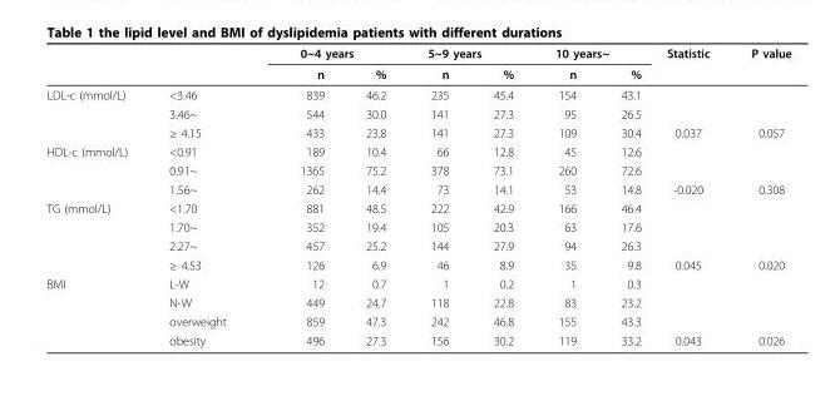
<table><thead><tr><td rowspan="2"></td><td rowspan="2"></td><td colspan="2">0~4 years</td><td colspan="2">5~9 years</td><td colspan="2">10 years~</td><td rowspan="2">Statistic</td><td rowspan="2">P value</td></tr><tr><td>n</td><td>%</td><td>n</td><td>%</td><td>n</td><td>%</td></tr></thead><tbody><tr><td rowspan="3">LDL-c (mmol/L)</td><td>&lt;3.46</td><td>839</td><td>46.2</td><td>235</td><td>45.4</td><td>154</td><td>43.1</td><td></td><td></td></tr><tr><td>3.46~</td><td>544</td><td>30.0</td><td>141</td><td>27.3</td><td>95</td><td>26.5</td><td></td><td></td></tr><tr><td>≥ 4.15</td><td>433</td><td>23.8</td><td>141</td><td>27.3</td><td>109</td><td>30.4</td><td>0.037</td><td>0.057</td></tr><tr><td rowspan="3">HDL-c (mmol/L)</td><td>&lt;0.91</td><td>189</td><td>10.4</td><td>66</td><td>12.8</td><td>45</td><td>12.6</td><td></td><td></td></tr><tr><td>0.91~</td><td>1365</td><td>75.2</td><td>378</td><td>73.1</td><td>260</td><td>72.6</td><td></td><td></td></tr><tr><td>1.56~</td><td>262</td><td>14.4</td><td>73</td><td>14.1</td><td>53</td><td>14.8</td><td>-0.020</td><td>0.308</td></tr><tr><td rowspan="4">TG (mmol/L)</td><td>&lt;1.70</td><td>881</td><td>48.5</td><td>222</td><td>42.9</td><td>166</td><td>46.4</td><td></td><td></td></tr><tr><td>1.70~</td><td>352</td><td>19.4</td><td>105</td><td>20.3</td><td>63</td><td>17.6</td><td></td><td></td></tr><tr><td>2.27~</td><td>457</td><td>25.2</td><td>144</td><td>27.9</td><td>94</td><td>26.3</td><td></td><td></td></tr><tr><td>≥ 4.53</td><td>126</td><td>6.9</td><td>46</td><td>8.9</td><td>35</td><td>9.8</td><td>0.045</td><td>0.020</td></tr><tr><td rowspan="4">BMI</td><td>L-W</td><td>12</td><td>0.7</td><td>1</td><td>0.2</td><td>1</td><td>0.3</td><td></td><td></td></tr><tr><td>N-W</td><td>449</td><td>24.7</td><td>118</td><td>22.8</td><td>83</td><td>23.2</td><td></td><td></td></tr><tr><td>overweight</td><td>859</td><td>47.3</td><td>242</td><td>46.8</td><td>155</td><td>43.3</td><td></td><td></td></tr><tr><td>obesity</td><td>496</td><td>27.3</td><td>156</td><td>30.2</td><td>119</td><td>33.2</td><td>0.043</td><td>0.026</td></tr></tbody></table>